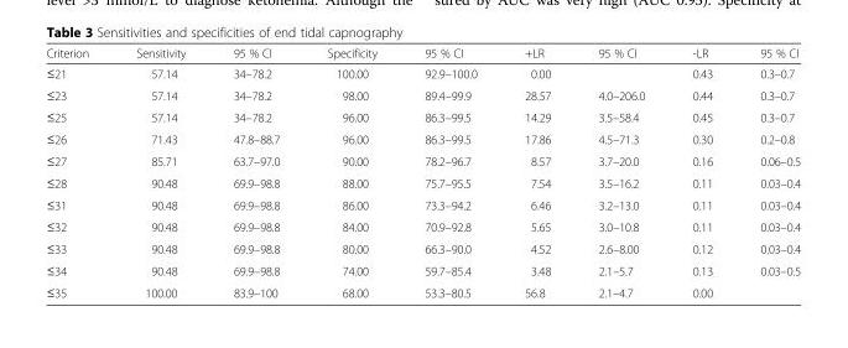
<table><thead><tr><td>Criterion</td><td>Sensitivity</td><td>95 % CI</td><td>Specificity</td><td>95 % CI</td><td>+LR</td><td>95 % CI</td><td>-LR</td><td>95 % CI</td></tr></thead><tbody><tr><td>≤21</td><td>57.14</td><td>34–78.2</td><td>100.00</td><td>92.9–100.0</td><td>0.00</td><td></td><td>0.43</td><td>0.3–0.7</td></tr><tr><td>≤23</td><td>57.14</td><td>34–78.2</td><td>98.00</td><td>89.4–99.9</td><td>28.57</td><td>4.0–206.0</td><td>0.44</td><td>0.3–0.7</td></tr><tr><td>≤25</td><td>57.14</td><td>34–78.2</td><td>96.00</td><td>86.3–99.5</td><td>14.29</td><td>3.5–58.4</td><td>0.45</td><td>0.3–0.7</td></tr><tr><td>≤26</td><td>71.43</td><td>47.8–88.7</td><td>96.00</td><td>86.3–99.5</td><td>17.86</td><td>4.5–71.3</td><td>0.30</td><td>0.2–0.8</td></tr><tr><td>≤27</td><td>85.71</td><td>63.7–97.0</td><td>90.00</td><td>78.2–96.7</td><td>8.57</td><td>3.7–20.0</td><td>0.16</td><td>0.06–0.5</td></tr><tr><td>≤28</td><td>90.48</td><td>69.9–98.8</td><td>88.00</td><td>75.7–95.5</td><td>7.54</td><td>3.5–16.2</td><td>0.11</td><td>0.03–0.4</td></tr><tr><td>≤31</td><td>90.48</td><td>69.9–98.8</td><td>86.00</td><td>73.3–94.2</td><td>6.46</td><td>3.2–13.0</td><td>0.11</td><td>0.03–0.4</td></tr><tr><td>≤32</td><td>90.48</td><td>69.9–98.8</td><td>84.00</td><td>70.9–92.8</td><td>5.65</td><td>3.0–10.8</td><td>0.11</td><td>0.03–0.4</td></tr><tr><td>≤33</td><td>90.48</td><td>69.9–98.8</td><td>80.00</td><td>66.3–90.0</td><td>4.52</td><td>2.6–8.00</td><td>0.12</td><td>0.03–0.4</td></tr><tr><td>≤34</td><td>90.48</td><td>69.9–98.8</td><td>74.00</td><td>59.7–85.4</td><td>3.48</td><td>2.1–5.7</td><td>0.13</td><td>0.03–0.5</td></tr><tr><td>≤35</td><td>100.00</td><td>83.9–100</td><td>68.00</td><td>53.3–80.5</td><td>56.8</td><td>2.1–4.7</td><td>0.00</td><td></td></tr></tbody></table>